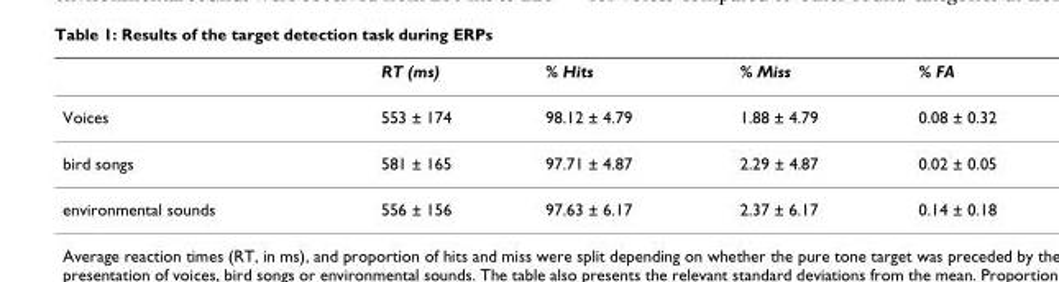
<table><thead><tr><td></td><td>RT (ms)</td><td>% Hits</td><td>% Miss</td><td>% FA</td></tr></thead><tbody><tr><td>Voices</td><td>553 ± 174</td><td>98.12 ± 4.79</td><td>1.88 ± 4.79</td><td>0.08 ± 0.32</td></tr><tr><td>bird songs</td><td>581 ± 165</td><td>97.71 ± 4.87</td><td>2.29 ± 4.87</td><td>0.02 ± 0.05</td></tr><tr><td>environmental sounds</td><td>556 ± 156</td><td>97.63 ± 6.17</td><td>2.37 ± 6.17</td><td>0.14 ± 0.18</td></tr></tbody></table>